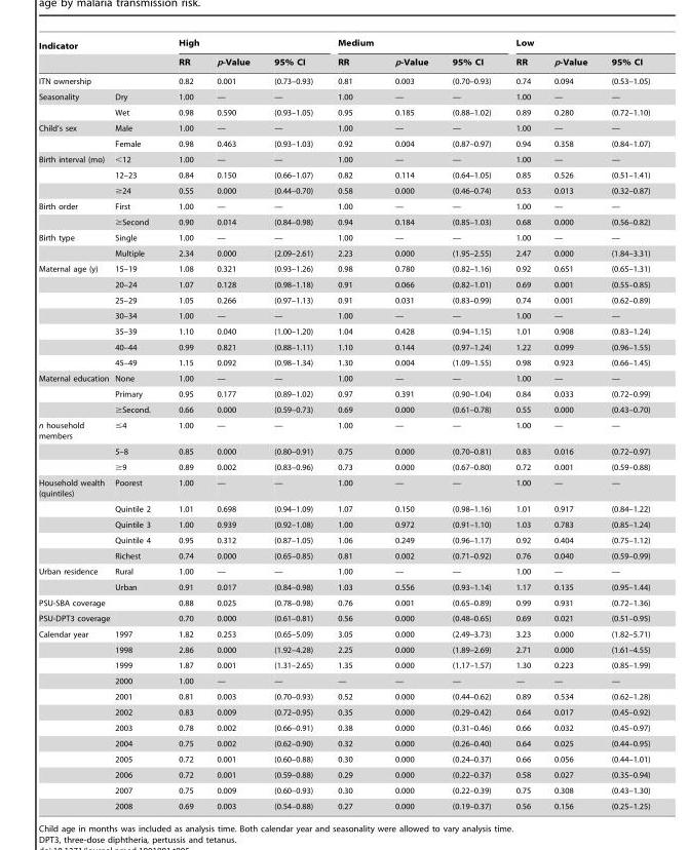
<table><thead><tr><td colspan="2">Indicator</td><td colspan="3">High</td><td colspan="3">Medium</td><td colspan="3">Low</td></tr><tr><td></td><td></td><td>RR</td><td>p-Value</td><td>95% CI</td><td>RR</td><td>p-Value</td><td>95% CI</td><td>RR</td><td>p-Value</td><td>95% CI</td></tr></thead><tbody><tr><td>ITN ownership</td><td></td><td>0.82</td><td>0.001</td><td>(0.73–0.93)</td><td>0.81</td><td>0.003</td><td>(0.70–0.93)</td><td>0.74</td><td>0.094</td><td>(0.53–1.05)</td></tr><tr><td rowspan="2">Seasonality</td><td>Dry</td><td>1.00</td><td>—</td><td>—</td><td>1.00</td><td>—</td><td>—</td><td>1.00</td><td>—</td><td>—</td></tr><tr><td>Wet</td><td>0.98</td><td>0.590</td><td>(0.93–1.05)</td><td>0.95</td><td>0.185</td><td>(0.88–1.02)</td><td>0.89</td><td>0.280</td><td>(0.72–1.10)</td></tr><tr><td rowspan="2">Child’s sex</td><td>Male</td><td>1.00</td><td>—</td><td>—</td><td>1.00</td><td>—</td><td>—</td><td>1.00</td><td>—</td><td>—</td></tr><tr><td>Female</td><td>0.98</td><td>0.463</td><td>(0.93–1.03)</td><td>0.92</td><td>0.004</td><td>(0.87–0.97)</td><td>0.94</td><td>0.358</td><td>(0.84–1.07)</td></tr><tr><td rowspan="3">Birth interval (mo)</td><td>&lt;12</td><td>1.00</td><td>—</td><td>—</td><td>1.00</td><td>—</td><td>—</td><td>1.00</td><td>—</td><td>—</td></tr><tr><td>12–23</td><td>0.84</td><td>0.150</td><td>(0.66–1.07)</td><td>0.82</td><td>0.114</td><td>(0.64–1.05)</td><td>0.85</td><td>0.526</td><td>(0.51–1.41)</td></tr><tr><td>≥24</td><td>0.55</td><td>0.000</td><td>(0.44–0.70)</td><td>0.58</td><td>0.000</td><td>(0.46–0.74)</td><td>0.53</td><td>0.013</td><td>(0.32–0.87)</td></tr><tr><td rowspan="2">Birth order</td><td>First</td><td>1.00</td><td>—</td><td>—</td><td>1.00</td><td>—</td><td>—</td><td>1.00</td><td>—</td><td>—</td></tr><tr><td>≥Second</td><td>0.90</td><td>0.014</td><td>(0.84–0.98)</td><td>0.94</td><td>0.184</td><td>(0.85–1.03)</td><td>0.68</td><td>0.000</td><td>(0.56–0.82)</td></tr><tr><td rowspan="2">Birth type</td><td>Single</td><td>1.00</td><td>—</td><td>—</td><td>1.00</td><td>—</td><td>—</td><td>1.00</td><td>—</td><td>—</td></tr><tr><td>Multiple</td><td>2.34</td><td>0.000</td><td>(2.09–2.61)</td><td>2.23</td><td>0.000</td><td>(1.95–2.55)</td><td>2.47</td><td>0.000</td><td>(1.84–3.31)</td></tr><tr><td rowspan="7">Maternal age (y)</td><td>15–19</td><td>1.08</td><td>0.321</td><td>(0.93–1.26)</td><td>0.98</td><td>0.780</td><td>(0.82–1.16)</td><td>0.92</td><td>0.651</td><td>(0.65–1.31)</td></tr><tr><td>20–24</td><td>1.07</td><td>0.128</td><td>(0.98–1.18)</td><td>0.91</td><td>0.066</td><td>(0.82–1.01)</td><td>0.69</td><td>0.001</td><td>(0.55–0.85)</td></tr><tr><td>25–29</td><td>1.05</td><td>0.266</td><td>(0.97–1.13)</td><td>0.91</td><td>0.031</td><td>(0.83–0.99)</td><td>0.74</td><td>0.001</td><td>(0.62–0.89)</td></tr><tr><td>30–34</td><td>1.00</td><td>—</td><td>—</td><td>1.00</td><td>—</td><td>—</td><td>1.00</td><td>—</td><td>—</td></tr><tr><td>35–39</td><td>1.10</td><td>0.040</td><td>(1.00–1.20)</td><td>1.04</td><td>0.428</td><td>(0.94–1.15)</td><td>1.01</td><td>0.908</td><td>(0.83–1.24)</td></tr><tr><td>40–44</td><td>0.99</td><td>0.821</td><td>(0.88–1.11)</td><td>1.10</td><td>0.144</td><td>(0.97–1.24)</td><td>1.22</td><td>0.099</td><td>(0.96–1.55)</td></tr><tr><td>45–49</td><td>1.15</td><td>0.092</td><td>(0.98–1.34)</td><td>1.30</td><td>0.004</td><td>(1.09–1.55)</td><td>0.98</td><td>0.923</td><td>(0.66–1.45)</td></tr><tr><td rowspan="3">Maternal education</td><td>None</td><td>1.00</td><td>—</td><td>—</td><td>1.00</td><td>—</td><td>—</td><td>1.00</td><td>—</td><td>—</td></tr><tr><td>Primary</td><td>0.95</td><td>0.177</td><td>(0.89–1.02)</td><td>0.97</td><td>0.391</td><td>(0.90–1.04)</td><td>0.84</td><td>0.033</td><td>(0.72–0.99)</td></tr><tr><td>≥Second.</td><td>0.66</td><td>0.000</td><td>(0.59–0.73)</td><td>0.69</td><td>0.000</td><td>(0.61–0.78)</td><td>0.55</td><td>0.000</td><td>(0.43–0.70)</td></tr><tr><td rowspan="3">n household members</td><td>≤4</td><td>1.00</td><td>—</td><td>—</td><td>1.00</td><td>—</td><td>—</td><td>1.00</td><td>—</td><td>—</td></tr><tr><td>5–8</td><td>0.85</td><td>0.000</td><td>(0.80–0.91)</td><td>0.75</td><td>0.000</td><td>(0.70–0.81)</td><td>0.83</td><td>0.016</td><td>(0.72–0.97)</td></tr><tr><td>≥9</td><td>0.89</td><td>0.002</td><td>(0.83–0.96)</td><td>0.73</td><td>0.000</td><td>(0.67–0.80)</td><td>0.72</td><td>0.001</td><td>(0.59–0.88)</td></tr><tr><td rowspan="5">Household wealth (quintiles)</td><td>Poorest</td><td>1.00</td><td>—</td><td>—</td><td>1.00</td><td>—</td><td>—</td><td>1.00</td><td>—</td><td>—</td></tr><tr><td>Quintile 2</td><td>1.01</td><td>0.698</td><td>(0.94–1.09)</td><td>1.07</td><td>0.150</td><td>(0.98–1.16)</td><td>1.01</td><td>0.917</td><td>(0.84–1.22)</td></tr><tr><td>Quintile 3</td><td>1.00</td><td>0.939</td><td>(0.92–1.08)</td><td>1.00</td><td>0.972</td><td>(0.91–1.10)</td><td>1.03</td><td>0.783</td><td>(0.85–1.24)</td></tr><tr><td>Quintile 4</td><td>0.95</td><td>0.312</td><td>(0.87–1.05)</td><td>1.06</td><td>0.249</td><td>(0.96–1.17)</td><td>0.92</td><td>0.404</td><td>(0.75–1.12)</td></tr><tr><td>Richest</td><td>0.74</td><td>0.000</td><td>(0.65–0.85)</td><td>0.81</td><td>0.002</td><td>(0.71–0.92)</td><td>0.76</td><td>0.040</td><td>(0.59–0.99)</td></tr><tr><td rowspan="2">Urban residence</td><td>Rural</td><td>1.00</td><td>—</td><td>—</td><td>1.00</td><td>—</td><td>—</td><td>1.00</td><td>—</td><td>—</td></tr><tr><td>Urban</td><td>0.91</td><td>0.017</td><td>(0.84–0.98)</td><td>1.03</td><td>0.556</td><td>(0.93–1.14)</td><td>1.17</td><td>0.135</td><td>(0.95–1.44)</td></tr><tr><td>PSU-SBA coverage</td><td></td><td>0.88</td><td>0.025</td><td>(0.78–0.98)</td><td>0.76</td><td>0.001</td><td>(0.65–0.89)</td><td>0.99</td><td>0.931</td><td>(0.72–1.36)</td></tr><tr><td>PSU-DPT3 coverage</td><td></td><td>0.70</td><td>0.000</td><td>(0.61–0.81)</td><td>0.56</td><td>0.000</td><td>(0.48–0.65)</td><td>0.69</td><td>0.021</td><td>(0.51–0.95)</td></tr><tr><td rowspan="12">Calendar year</td><td>1997</td><td>1.82</td><td>0.253</td><td>(0.65–5.09)</td><td>3.05</td><td>0.000</td><td>(2.49–3.73)</td><td>3.23</td><td>0.000</td><td>(1.82–5.71)</td></tr><tr><td>1998</td><td>2.86</td><td>0.000</td><td>(1.92–4.28)</td><td>2.25</td><td>0.000</td><td>(1.89–2.69)</td><td>2.71</td><td>0.000</td><td>(1.61–4.55)</td></tr><tr><td>1999</td><td>1.87</td><td>0.001</td><td>(1.31–2.65)</td><td>1.35</td><td>0.000</td><td>(1.17–1.57)</td><td>1.30</td><td>0.223</td><td>(0.85–1.99)</td></tr><tr><td>2000</td><td>1.00</td><td>—</td><td>—</td><td>—</td><td>—</td><td>—</td><td>—</td><td>—</td><td>—</td></tr><tr><td>2001</td><td>0.81</td><td>0.003</td><td>(0.70–0.93)</td><td>0.52</td><td>0.000</td><td>(0.44–0.62)</td><td>0.89</td><td>0.534</td><td>(0.62–1.28)</td></tr><tr><td>2002</td><td>0.83</td><td>0.009</td><td>(0.72–0.95)</td><td>0.35</td><td>0.000</td><td>(0.29–0.42)</td><td>0.64</td><td>0.017</td><td>(0.45–0.92)</td></tr><tr><td>2003</td><td>0.78</td><td>0.002</td><td>(0.66–0.91)</td><td>0.38</td><td>0.000</td><td>(0.31–0.46)</td><td>0.66</td><td>0.032</td><td>(0.45–0.97)</td></tr><tr><td>2004</td><td>0.75</td><td>0.002</td><td>(0.62–0.90)</td><td>0.32</td><td>0.000</td><td>(0.26–0.40)</td><td>0.64</td><td>0.025</td><td>(0.44–0.95)</td></tr><tr><td>2005</td><td>0.72</td><td>0.001</td><td>(0.60–0.88)</td><td>0.30</td><td>0.000</td><td>(0.24–0.37)</td><td>0.66</td><td>0.056</td><td>(0.44–1.01)</td></tr><tr><td>2006</td><td>0.72</td><td>0.001</td><td>(0.59–0.88)</td><td>0.29</td><td>0.000</td><td>(0.22–0.37)</td><td>0.58</td><td>0.027</td><td>(0.35–0.94)</td></tr><tr><td>2007</td><td>0.75</td><td>0.009</td><td>(0.60–0.93)</td><td>0.30</td><td>0.000</td><td>(0.22–0.39)</td><td>0.75</td><td>0.308</td><td>(0.43–1.30)</td></tr><tr><td>2008</td><td>0.69</td><td>0.003</td><td>(0.54–0.88)</td><td>0.27</td><td>0.000</td><td>(0.19–0.37)</td><td>0.56</td><td>0.156</td><td>(0.25–1.25)</td></tr></tbody></table>